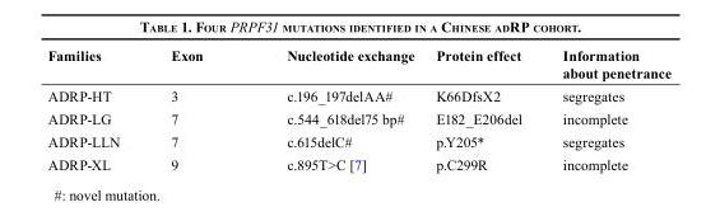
<table><thead><tr><td>Families</td><td>Exon</td><td>Nucleotide exchange</td><td>Protein effect</td><td>Information about penetrance</td></tr></thead><tbody><tr><td>ADRP-HT</td><td>3</td><td>c.196_197delAA#</td><td>K66DfsX2</td><td>segregates</td></tr><tr><td>ADRP-LG</td><td>7</td><td>c.544_618del75 bp#</td><td>E182_E206del</td><td>incomplete</td></tr><tr><td>ADRP-LLN</td><td>7</td><td>c.615delC#</td><td>p.Y205*</td><td>segregates</td></tr><tr><td>ADRP-XL</td><td>9</td><td>c.895T&gt;C [7]</td><td>p.C299R</td><td>incomplete</td></tr></tbody></table>